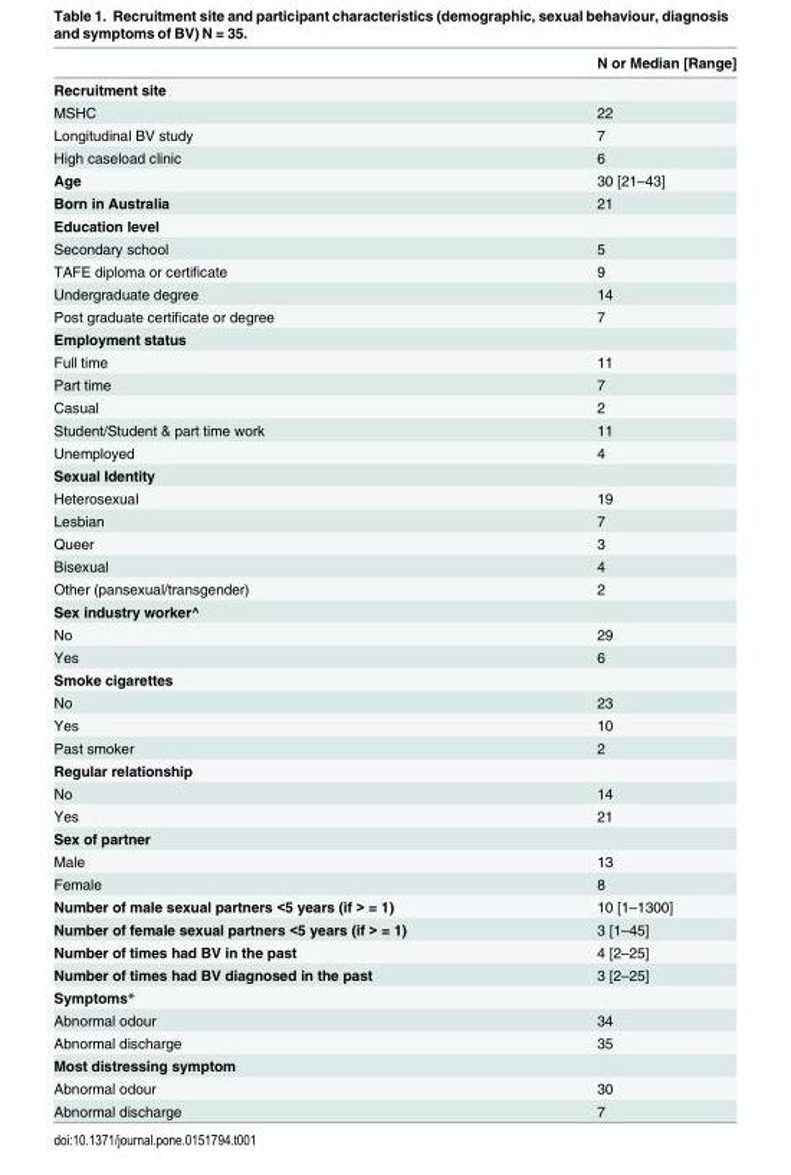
<table><thead><tr><td></td><td>N or Median [Range]</td></tr></thead><tbody><tr><td colspan="2">Recruitment site</td></tr><tr><td>MSHC</td><td>22</td></tr><tr><td>Longitudinal BV study</td><td>7</td></tr><tr><td>High caseload clinic</td><td>6</td></tr><tr><td>Age</td><td>30 [21–43]</td></tr><tr><td>Born in Australia</td><td>21</td></tr><tr><td colspan="2">Education level</td></tr><tr><td>Secondary school</td><td>5</td></tr><tr><td>TAFE diploma or certificate</td><td>9</td></tr><tr><td>Undergraduate degree</td><td>14</td></tr><tr><td>Post graduate certificate or degree</td><td>7</td></tr><tr><td colspan="2">Employment status</td></tr><tr><td>Full time</td><td>11</td></tr><tr><td>Part time</td><td>7</td></tr><tr><td>Casual</td><td>2</td></tr><tr><td>Student/Student &amp; part time work</td><td>11</td></tr><tr><td>Unemployed</td><td>4</td></tr><tr><td colspan="2">Sexual Identity</td></tr><tr><td>Heterosexual</td><td>19</td></tr><tr><td>Lesbian</td><td>7</td></tr><tr><td>Queer</td><td>3</td></tr><tr><td>Bisexual</td><td>4</td></tr><tr><td>Other (pansexual/transgender)</td><td>2</td></tr><tr><td colspan="2">Sex industry worker^</td></tr><tr><td>No</td><td>29</td></tr><tr><td>Yes</td><td>6</td></tr><tr><td colspan="2">Smoke cigarettes</td></tr><tr><td>No</td><td>23</td></tr><tr><td>Yes</td><td>10</td></tr><tr><td>Past smoker</td><td>2</td></tr><tr><td colspan="2">Regular relationship</td></tr><tr><td>No</td><td>14</td></tr><tr><td>Yes</td><td>21</td></tr><tr><td colspan="2">Sex of partner</td></tr><tr><td>Male</td><td>13</td></tr><tr><td>Female</td><td>8</td></tr><tr><td>Number of male sexual partners &lt;5 years (if &gt; = 1)</td><td>10 [1–1300]</td></tr><tr><td>Number of female sexual partners &lt;5 years (if &gt; = 1)</td><td>3 [1–45]</td></tr><tr><td>Number of times had BV in the past</td><td>4 [2–25]</td></tr><tr><td>Number of times had BV diagnosed in the past</td><td>3 [2–25]</td></tr><tr><td colspan="2">Symptoms*</td></tr><tr><td>Abnormal odour</td><td>34</td></tr><tr><td>Abnormal discharge</td><td>35</td></tr><tr><td colspan="2">Most distressing symptom</td></tr><tr><td>Abnormal odour</td><td>30</td></tr><tr><td>Abnormal discharge</td><td>7</td></tr></tbody></table>